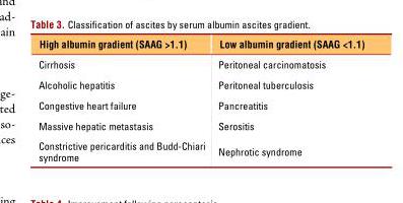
<table><thead><tr><td>High albumin gradient (SAAG &gt;1.1)</td><td>Low albumin gradient (SAAG &lt;1.1)</td></tr></thead><tbody><tr><td>Cirrhosis</td><td>Peritoneal carcinomatosis</td></tr><tr><td>Alcoholic hepatitis</td><td>Peritoneal tuberculosis</td></tr><tr><td>Congestive heart failure</td><td>Pancreatitis</td></tr><tr><td>Massive hepatic metastasis</td><td>Serositis</td></tr><tr><td>Constrictive pericarditis and Budd-Chiari syndrome</td><td>Nephrotic syndrome</td></tr></tbody></table>